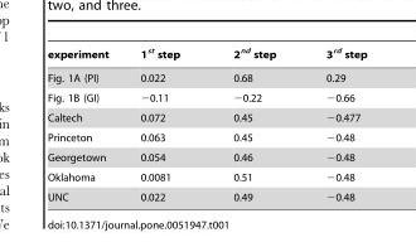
<table><thead><tr><td>experiment</td><td>1<sup>st</sup> step</td><td>2<sup>nd</sup> step</td><td>3<sup>rd</sup> step</td></tr></thead><tbody><tr><td>Fig. 1A (PI)</td><td>0.022</td><td>0.68</td><td>0.29</td></tr><tr><td>Fig. 1B (GI)</td><td>−0.11</td><td>−0.22</td><td>−0.66</td></tr><tr><td>Caltech</td><td>0.072</td><td>0.45</td><td>−0.477</td></tr><tr><td>Princeton</td><td>0.063</td><td>0.45</td><td>−0.48</td></tr><tr><td>Georgetown</td><td>0.054</td><td>0.46</td><td>−0.48</td></tr><tr><td>Oklahoma</td><td>0.0081</td><td>0.51</td><td>−0.48</td></tr><tr><td>UNC</td><td>0.022</td><td>0.49</td><td>−0.48</td></tr></tbody></table>